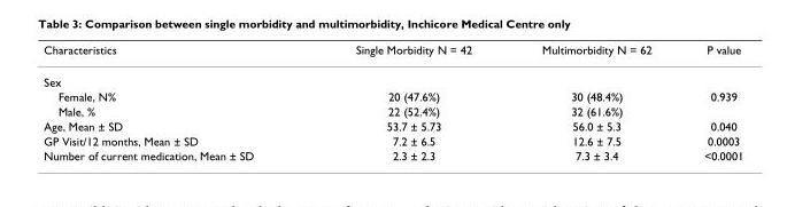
<table><thead><tr><td>Characteristics</td><td>Single Morbidity N = 42</td><td>Multimorbidity N = 62</td><td>P value</td></tr></thead><tbody><tr><td colspan="4">Sex</td></tr><tr><td>Female, N%</td><td>20 (47.6%)</td><td>30 (48.4%)</td><td>0.939</td></tr><tr><td>Male, %</td><td>22 (52.4%)</td><td>32 (61.6%)</td><td></td></tr><tr><td>Age, Mean ± SD</td><td>53.7 ± 5.73</td><td>56.0 ± 5.3</td><td>0.040</td></tr><tr><td>GP Visit/12 months, Mean ± SD</td><td>7.2 ± 6.5</td><td>12.6 ± 7.5</td><td>0.0003</td></tr><tr><td>Number of current medication, Mean ± SD</td><td>2.3 ± 2.3</td><td>7.3 ± 3.4</td><td>&lt;0.0001</td></tr></tbody></table>